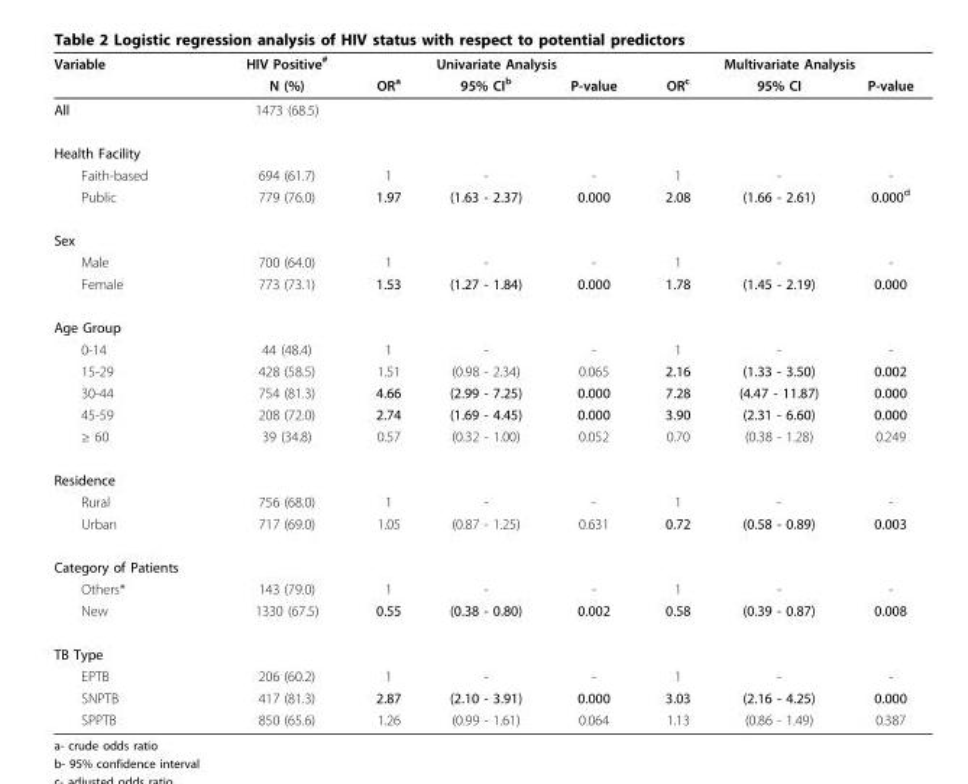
<table><thead><tr><td rowspan="2">Variable</td><td rowspan="2">HIV Positive<sup>#</sup> N (%)</td><td colspan="3">Univariate Analysis</td><td colspan="3">Multivariate Analysis</td></tr><tr><td>OR<sup>a</sup></td><td>95% CI<sup>b</sup></td><td>P-value</td><td>OR<sup>c</sup></td><td>95% CI</td><td>P-value</td></tr></thead><tbody><tr><td>All</td><td>1473 (68.5)</td><td></td><td></td><td></td><td></td><td></td><td></td></tr><tr><td colspan="8">Health Facility</td></tr><tr><td>Faith-based</td><td>694 (61.7)</td><td>1</td><td>-</td><td>-</td><td>1</td><td>-</td><td>-</td></tr><tr><td>Public</td><td>779 (76.0)</td><td>1.97</td><td>(1.63 - 2.37)</td><td>0.000</td><td>2.08</td><td>(1.66 - 2.61)</td><td>0.000<sup>d</sup></td></tr><tr><td colspan="8">Sex</td></tr><tr><td>Male</td><td>700 (64.0)</td><td>1</td><td>-</td><td>-</td><td>1</td><td>-</td><td>-</td></tr><tr><td>Female</td><td>773 (73.1)</td><td>1.53</td><td>(1.27 - 1.84)</td><td>0.000</td><td>1.78</td><td>(1.45 - 2.19)</td><td>0.000</td></tr><tr><td colspan="8">Age Group</td></tr><tr><td>0-14</td><td>44 (48.4)</td><td>1</td><td>-</td><td>-</td><td>1</td><td>-</td><td>-</td></tr><tr><td>15-29</td><td>428 (58.5)</td><td>1.51</td><td>(0.98 - 2.34)</td><td>0.065</td><td>2.16</td><td>(1.33 - 3.50)</td><td>0.002</td></tr><tr><td>30-44</td><td>754 (81.3)</td><td>4.66</td><td>(2.99 - 7.25)</td><td>0.000</td><td>7.28</td><td>(4.47 - 11.87)</td><td>0.000</td></tr><tr><td>45-59</td><td>208 (72.0)</td><td>2.74</td><td>(1.69 - 4.45)</td><td>0.000</td><td>3.90</td><td>(2.31 - 6.60)</td><td>0.000</td></tr><tr><td>≥ 60</td><td>39 (34.8)</td><td>0.57</td><td>(0.32 - 1.00)</td><td>0.052</td><td>0.70</td><td>(0.38 - 1.28)</td><td>0.249</td></tr><tr><td colspan="8">Residence</td></tr><tr><td>Rural</td><td>756 (68.0)</td><td>1</td><td>-</td><td>-</td><td>1</td><td>-</td><td>-</td></tr><tr><td>Urban</td><td>717 (69.0)</td><td>1.05</td><td>(0.87 - 1.25)</td><td>0.631</td><td>0.72</td><td>(0.58 - 0.89)</td><td>0.003</td></tr><tr><td colspan="8">Category of Patients</td></tr><tr><td>Others*</td><td>143 (79.0)</td><td>1</td><td>-</td><td>-</td><td>1</td><td>-</td><td>-</td></tr><tr><td>New</td><td>1330 (67.5)</td><td>0.55</td><td>(0.38 - 0.80)</td><td>0.002</td><td>0.58</td><td>(0.39 - 0.87)</td><td>0.008</td></tr><tr><td colspan="8">TB Type</td></tr><tr><td>EPTB</td><td>206 (60.2)</td><td>1</td><td>-</td><td>-</td><td>1</td><td>-</td><td>-</td></tr><tr><td>SNPTB</td><td>417 (81.3)</td><td>2.87</td><td>(2.10 - 3.91)</td><td>0.000</td><td>3.03</td><td>(2.16 - 4.25)</td><td>0.000</td></tr><tr><td>SPPTB</td><td>850 (65.6)</td><td>1.26</td><td>(0.99 - 1.61)</td><td>0.064</td><td>1.13</td><td>(0.86 - 1.49)</td><td>0.387</td></tr></tbody></table>